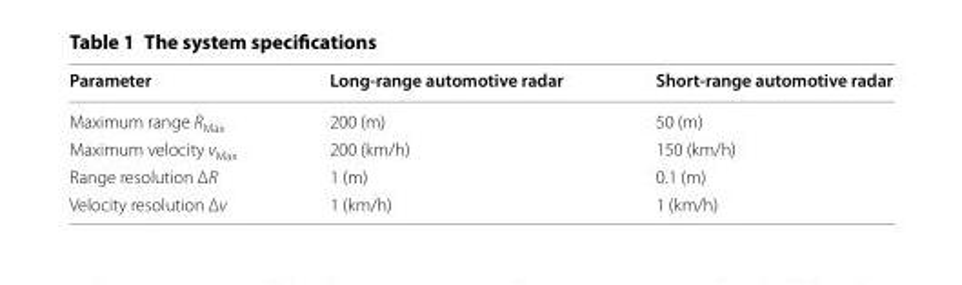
<table><thead><tr><td>Parameter</td><td>Long-range automotive radar</td><td>Short-range automotive radar</td></tr></thead><tbody><tr><td>Maximum range R<sub>Max</sub></td><td>200 (m)</td><td>50 (m)</td></tr><tr><td>Maximum velocity v<sub>Max</sub></td><td>200 (km/h)</td><td>150 (km/h)</td></tr><tr><td>Range resolution ΔR</td><td>1 (m)</td><td>0.1 (m)</td></tr><tr><td>Velocity resolution Δv</td><td>1 (km/h)</td><td>1 (km/h)</td></tr></tbody></table>